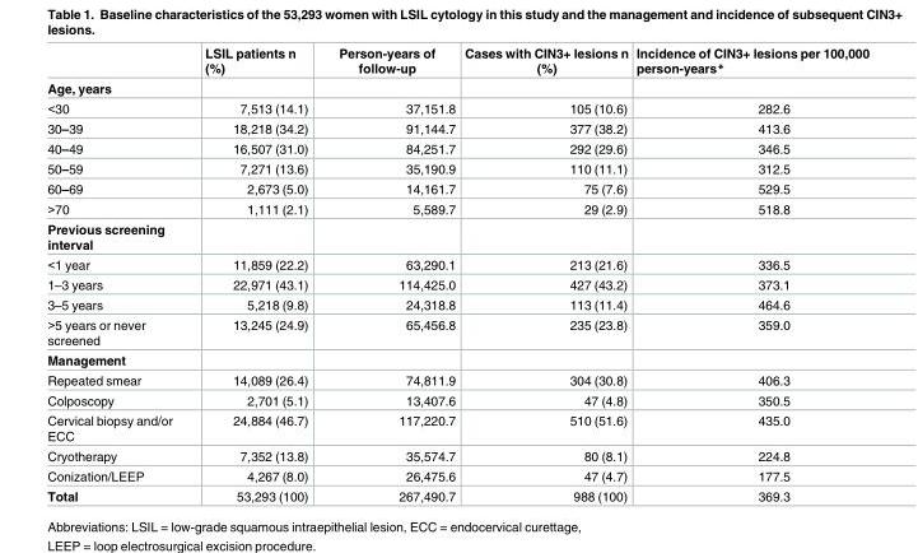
<table><thead><tr><td></td><td>LSIL patients n (%)</td><td>Person-years of follow-up</td><td>Cases with CIN3+ lesions n (%)</td><td>Incidence of CIN3+ lesions per 100,000 person-years*</td></tr></thead><tbody><tr><td colspan="5">Age, years</td></tr><tr><td>&lt;30</td><td>7,513 (14.1)</td><td>37,151.8</td><td>105 (10.6)</td><td>282.6</td></tr><tr><td>30–39</td><td>18,218 (34.2)</td><td>91,144.7</td><td>377 (38.2)</td><td>413.6</td></tr><tr><td>40–49</td><td>16,507 (31.0)</td><td>84,251.7</td><td>292 (29.6)</td><td>346.5</td></tr><tr><td>50–59</td><td>7,271 (13.6)</td><td>35,190.9</td><td>110 (11.1)</td><td>312.5</td></tr><tr><td>60–69</td><td>2,673 (5.0)</td><td>14,161.7</td><td>75 (7.6)</td><td>529.5</td></tr><tr><td>&gt;70</td><td>1,111 (2.1)</td><td>5,589.7</td><td>29 (2.9)</td><td>518.8</td></tr><tr><td colspan="5">Previous screening interval</td></tr><tr><td>&lt;1 year</td><td>11,859 (22.2)</td><td>63,290.1</td><td>213 (21.6)</td><td>336.5</td></tr><tr><td>1–3 years</td><td>22,971 (43.1)</td><td>114,425.0</td><td>427 (43.2)</td><td>373.1</td></tr><tr><td>3–5 years</td><td>5,218 (9.8)</td><td>24,318.8</td><td>113 (11.4)</td><td>464.6</td></tr><tr><td>&gt;5 years or never screened</td><td>13,245 (24.9)</td><td>65,456.8</td><td>235 (23.8)</td><td>359.0</td></tr><tr><td colspan="5">Management</td></tr><tr><td>Repeated smear</td><td>14,089 (26.4)</td><td>74,811.9</td><td>304 (30.8)</td><td>406.3</td></tr><tr><td>Colposcopy</td><td>2,701 (5.1)</td><td>13,407.6</td><td>47 (4.8)</td><td>350.5</td></tr><tr><td>Cervical biopsy and/or ECC</td><td>24,884 (46.7)</td><td>117,220.7</td><td>510 (51.6)</td><td>435.0</td></tr><tr><td>Cryotherapy</td><td>7,352 (13.8)</td><td>35,574.7</td><td>80 (8.1)</td><td>224.8</td></tr><tr><td>Conization/LEEP</td><td>4,267 (8.0)</td><td>26,475.6</td><td>47 (4.7)</td><td>177.5</td></tr><tr><td>Total</td><td>53,293 (100)</td><td>267,490.7</td><td>988 (100)</td><td>369.3</td></tr></tbody></table>